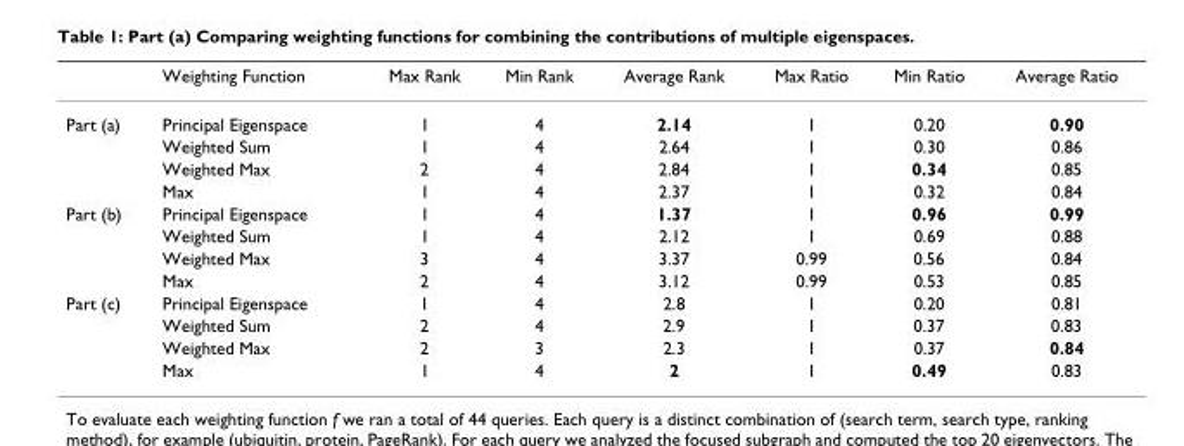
<table><thead><tr><td></td><td>Weighting Function</td><td>Max Rank</td><td>Min Rank</td><td>Average Rank</td><td>Max Ratio</td><td>Min Ratio</td><td>Average Ratio</td></tr></thead><tbody><tr><td rowspan="4">Part (a)</td><td>Principal Eigenspace</td><td>1</td><td>4</td><td>2.14</td><td>1</td><td>0.20</td><td>0.90</td></tr><tr><td>Weighted Sum</td><td>1</td><td>4</td><td>2.64</td><td>1</td><td>0.30</td><td>0.86</td></tr><tr><td>Weighted Max</td><td>2</td><td>4</td><td>2.84</td><td>1</td><td>0.34</td><td>0.85</td></tr><tr><td>Max</td><td>1</td><td>4</td><td>2.37</td><td>1</td><td>0.32</td><td>0.84</td></tr><tr><td rowspan="4">Part (b)</td><td>Principal Eigenspace</td><td>1</td><td>4</td><td>1.37</td><td>1</td><td>0.96</td><td>0.99</td></tr><tr><td>Weighted Sum</td><td>1</td><td>4</td><td>2.12</td><td>1</td><td>0.69</td><td>0.88</td></tr><tr><td>Weighted Max</td><td>3</td><td>4</td><td>3.37</td><td>0.99</td><td>0.56</td><td>0.84</td></tr><tr><td>Max</td><td>2</td><td>4</td><td>3.12</td><td>0.99</td><td>0.53</td><td>0.85</td></tr><tr><td rowspan="4">Part (c)</td><td>Principal Eigenspace</td><td>1</td><td>4</td><td>2.8</td><td>1</td><td>0.20</td><td>0.81</td></tr><tr><td>Weighted Sum</td><td>2</td><td>4</td><td>2.9</td><td>1</td><td>0.37</td><td>0.83</td></tr><tr><td>Weighted Max</td><td>2</td><td>3</td><td>2.3</td><td>1</td><td>0.37</td><td>0.84</td></tr><tr><td>Max</td><td>1</td><td>4</td><td>2</td><td>1</td><td>0.49</td><td>0.83</td></tr></tbody></table>